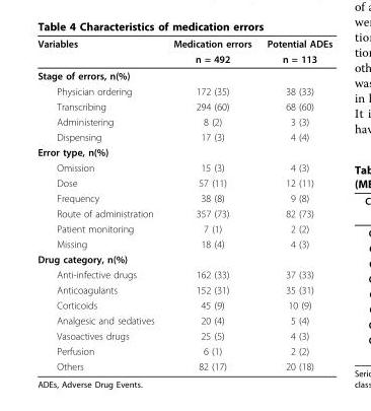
<table><thead><tr><td rowspan="2">Variables</td><td rowspan="2">Medication errors n = 492</td><td rowspan="2">Potential ADEs n = 113</td></tr><tr></tr></thead><tbody><tr><td colspan="3">Stage of errors, n(%)</td></tr><tr><td>Physician ordering</td><td>172 (35)</td><td>38 (33)</td></tr><tr><td>Transcribing</td><td>294 (60)</td><td>68 (60)</td></tr><tr><td>Administering</td><td>8 (2)</td><td>3 (3)</td></tr><tr><td>Dispensing</td><td>17 (3)</td><td>4 (4)</td></tr><tr><td colspan="3">Error type, n(%)</td></tr><tr><td>Omission</td><td>15 (3)</td><td>4 (3)</td></tr><tr><td>Dose</td><td>57 (11)</td><td>12 (11)</td></tr><tr><td>Frequency</td><td>38 (8)</td><td>9 (8)</td></tr><tr><td>Route of administration</td><td>357 (73)</td><td>82 (73)</td></tr><tr><td>Patient monitoring</td><td>7 (1)</td><td>2 (2)</td></tr><tr><td>Missing</td><td>18 (4)</td><td>4 (3)</td></tr><tr><td colspan="3">Drug category, n(%)</td></tr><tr><td>Anti-infective drugs</td><td>162 (33)</td><td>37 (33)</td></tr><tr><td>Anticoagulants</td><td>152 (31)</td><td>35 (31)</td></tr><tr><td>Corticoids</td><td>45 (9)</td><td>10 (9)</td></tr><tr><td>Analgesic and sedatives</td><td>20 (4)</td><td>5 (4)</td></tr><tr><td>Vasoactives drugs</td><td>25 (5)</td><td>4 (3)</td></tr><tr><td>Perfusion</td><td>6 (1)</td><td>2 (2)</td></tr><tr><td>Others</td><td>82 (17)</td><td>20 (18)</td></tr></tbody></table>